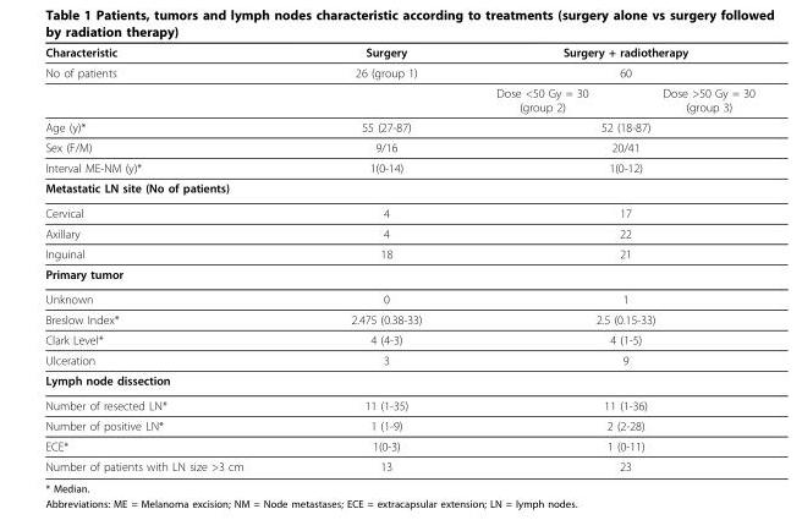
<table><thead><tr><td rowspan="3">Characteristic No of patients</td><td rowspan="3">Surgery 26 (group 1)</td><td rowspan="2" colspan="2">Surgery + radiotherapy 60</td></tr><tr></tr><tr><td>Dose &lt;50 Gy = 30 (group 2)</td><td>Dose &gt;50 Gy = 30 (group 3)</td></tr></thead><tbody><tr><td>Age (y)*</td><td>55 (27-87)</td><td colspan="2">52 (18-87)</td></tr><tr><td>Sex (F/M)</td><td>9/16</td><td colspan="2">20/41</td></tr><tr><td>Interval ME-NM (y)*</td><td>1(0-14)</td><td colspan="2">1(0-12)</td></tr><tr><td colspan="4">Metastatic LN site (No of patients)</td></tr><tr><td>Cervical</td><td>4</td><td colspan="2">17</td></tr><tr><td>Axillary</td><td>4</td><td colspan="2">22</td></tr><tr><td>Inguinal</td><td>18</td><td colspan="2">21</td></tr><tr><td colspan="4">Primary tumor</td></tr><tr><td>Unknown</td><td>0</td><td colspan="2">1</td></tr><tr><td>Breslow Index*</td><td>2.475 (0.38-33)</td><td colspan="2">2.5 (0.15-33)</td></tr><tr><td>Clark Level*</td><td>4 (4-3)</td><td colspan="2">4 (1-5)</td></tr><tr><td>Ulceration</td><td>3</td><td colspan="2">9</td></tr><tr><td colspan="4">Lymph node dissection</td></tr><tr><td>Number of resected LN*</td><td>11 (1-35)</td><td colspan="2">11 (1-36)</td></tr><tr><td>Number of positive LN*</td><td>1 (1-9)</td><td colspan="2">2 (2-28)</td></tr><tr><td>ECE*</td><td>1(0-3)</td><td colspan="2">1 (0-11)</td></tr><tr><td>Number of patients with LN size &gt;3 cm</td><td>13</td><td colspan="2">23</td></tr></tbody></table>